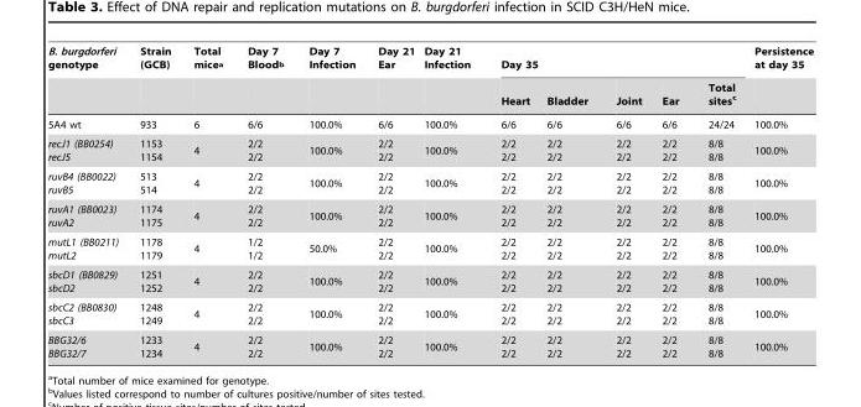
<table><thead><tr><td rowspan="2">B. burgdorferi genotype</td><td rowspan="2">Strain (GCB)</td><td rowspan="2">Total mice<sup>a</sup></td><td rowspan="2">Day 7 Blood<sup>b</sup></td><td rowspan="2">Day 7 Infection</td><td rowspan="2">Day 21 Ear</td><td rowspan="2">Day 21 Infection</td><td colspan="5">Day 35</td><td rowspan="2">Persistence at day 35</td></tr><tr><td>Heart</td><td>Bladder</td><td>Joint</td><td>Ear</td><td>Total sites<sup>c</sup></td></tr></thead><tbody><tr><td>5A4 wt</td><td>933</td><td>6</td><td>6/6</td><td>100.0%</td><td>6/6</td><td>100.0%</td><td>6/6</td><td>6/6</td><td>6/6</td><td>6/6</td><td>24/24</td><td>100.0%</td></tr><tr><td>recJ1 (BB0254) recJ5</td><td>1153 1154</td><td>4</td><td>2/2 2/2</td><td>100.0%</td><td>2/2 2/2</td><td>100.0%</td><td>2/2 2/2</td><td>2/2 2/2</td><td>2/2 2/2</td><td>2/2 2/2</td><td>8/8 8/8</td><td>100.0%</td></tr><tr><td>ruvB4 (BB0022) ruvB5</td><td>513 514</td><td>4</td><td>2/2 2/2</td><td>100.0%</td><td>2/2 2/2</td><td>100.0%</td><td>2/2 2/2</td><td>2/2 2/2</td><td>2/2 2/2</td><td>2/2 2/2</td><td>8/8 8/8</td><td>100.0%</td></tr><tr><td>ruvA1 (BB0023) ruvA2</td><td>1174 1175</td><td>4</td><td>2/2 2/2</td><td>100.0%</td><td>2/2 2/2</td><td>100.0%</td><td>2/2 2/2</td><td>2/2 2/2</td><td>2/2 2/2</td><td>2/2 2/2</td><td>8/8 8/8</td><td>100.0%</td></tr><tr><td>mutL1 (BB0211) mutL2</td><td>1178 1179</td><td>4</td><td>1/2 1/2</td><td>50.0%</td><td>2/2 2/2</td><td>100.0%</td><td>2/2 2/2</td><td>2/2 2/2</td><td>2/2 2/2</td><td>2/2 2/2</td><td>8/8 8/8</td><td>100.0%</td></tr><tr><td>sbcD1 (BB0829) sbcD2</td><td>1251 1252</td><td>4</td><td>2/2 2/2</td><td>100.0%</td><td>2/2 2/2</td><td>100.0%</td><td>2/2 2/2</td><td>2/2 2/2</td><td>2/2 2/2</td><td>2/2 2/2</td><td>8/8 8/8</td><td>100.0%</td></tr><tr><td>sbcC2 (BB0830) sbcC3</td><td>1248 1249</td><td>4</td><td>2/2 2/2</td><td>100.0%</td><td>2/2 2/2</td><td>100.0%</td><td>2/2 2/2</td><td>2/2 2/2</td><td>2/2 2/2</td><td>2/2 2/2</td><td>8/8 8/8</td><td>100.0%</td></tr><tr><td>BBG32/6 BBG32/7</td><td>1233 1234</td><td>4</td><td>2/2 2/2</td><td>100.0%</td><td>2/2 2/2</td><td>100.0%</td><td>2/2 2/2</td><td>2/2 2/2</td><td>2/2 2/2</td><td>2/2 2/2</td><td>8/8 8/8</td><td>100.0%</td></tr></tbody></table>